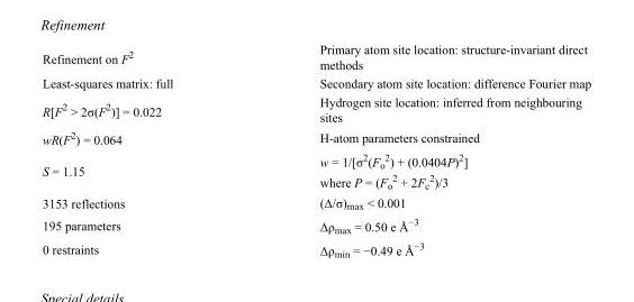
<table><tbody><tr><td>Refinement on F<sup>2</sup></td><td>Primary atom site location: structure-invariant direct methods</td></tr><tr><td>Least-squares matrix: full</td><td>Secondary atom site location: difference Fourier map</td></tr><tr><td>R[F<sup>2</sup> &gt; 2σ(F<sup>2</sup>)] = 0.022</td><td>Hydrogen site location: inferred from neighbouring sites</td></tr><tr><td>wR(F<sup>2</sup>) = 0.064</td><td>H-atom parameters constrained</td></tr><tr><td>S = 1.15</td><td>w = 1/[σ<sup>2</sup>(F<sub>o</sub> <sup>2</sup>) + (0.0404P)<sup>2</sup>] where P = (F<sub>o</sub> <sup>2</sup> + 2F<sub>c</sub> <sup>2</sup>)/3</td></tr><tr><td>3153 reflections</td><td>(Δ/σ)<sub>max</sub> &lt; 0.001</td></tr><tr><td>195 parameters</td><td>Δρ<sub>max</sub> = 0.50 e Å<sup>−3</sup></td></tr><tr><td>0 restraints</td><td>Δρ<sub>min</sub> = −0.49 e Å<sup>−3</sup></td></tr></tbody></table>